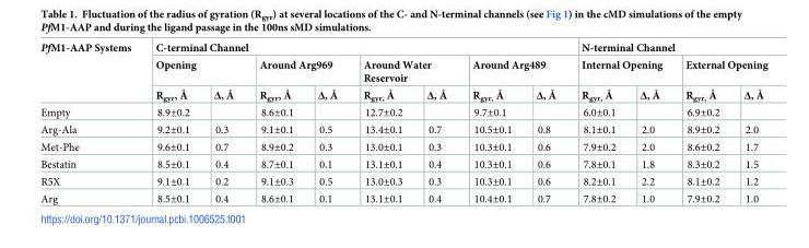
<table><thead><tr><td rowspan="3">PfM1-AAP Systems</td><td colspan="8">C-terminal Channel</td><td colspan="4">N-terminal Channel</td></tr><tr><td colspan="2">Opening</td><td colspan="2">Around Arg969</td><td colspan="2">Around Water Reservoir</td><td colspan="2">Around Arg489</td><td colspan="2">Internal Opening</td><td colspan="2">External Opening</td></tr><tr><td>R<sub>gyr</sub>, Å</td><td>Δ, Å</td><td>R<sub>gyr</sub>, Å</td><td>Δ, Å</td><td>R<sub>gyr,</sub> Å</td><td>Δ, Å</td><td>R<sub>gyr,</sub> Å</td><td>Δ, Å</td><td>R<sub>gyr,</sub> Å</td><td>Δ, Å</td><td>R<sub>gyr,</sub> Å</td><td>Δ, Å</td></tr></thead><tbody><tr><td>Empty</td><td>8.9±0.2</td><td></td><td>8.6±0.1</td><td></td><td>12.7±0.2</td><td></td><td>9.7±0.1</td><td></td><td>6.0±0.1</td><td></td><td>6.9±0.2</td><td></td></tr><tr><td>Arg-Ala</td><td>9.2±0.1</td><td>0.3</td><td>9.1±0.1</td><td>0.5</td><td>13.4±0.1</td><td>0.7</td><td>10.5±0.1</td><td>0.8</td><td>8.1±0.1</td><td>2.0</td><td>8.9±0.2</td><td>2.0</td></tr><tr><td>Met-Phe</td><td>9.6±0.1</td><td>0.7</td><td>8.9±0.2</td><td>0.3</td><td>13.0±0.1</td><td>0.3</td><td>10.3±0.1</td><td>0.6</td><td>7.9±0.2</td><td>2.0</td><td>8.6±0.2</td><td>1.7</td></tr><tr><td>Bestatin</td><td>8.5±0.1</td><td>0.4</td><td>8.7±0.1</td><td>0.1</td><td>13.1±0.1</td><td>0.4</td><td>10.3±0.1</td><td>0.6</td><td>7.8±0.1</td><td>1.8</td><td>8.3±0.2</td><td>1.5</td></tr><tr><td>R5X</td><td>9.1±0.1</td><td>0.2</td><td>9.1±0.3</td><td>0.5</td><td>13.0±0.3</td><td>0.3</td><td>10.3±0.1</td><td>0.6</td><td>8.2±0.1</td><td>2.2</td><td>8.1±0.2</td><td>1.2</td></tr><tr><td>Arg</td><td>8.5±0.1</td><td>0.4</td><td>8.6±0.1</td><td>0.1</td><td>13.1±0.1</td><td>0.4</td><td>10.4±0.1</td><td>0.7</td><td>7.8±0.2</td><td>1.0</td><td>7.9±0.2</td><td>1.0</td></tr></tbody></table>